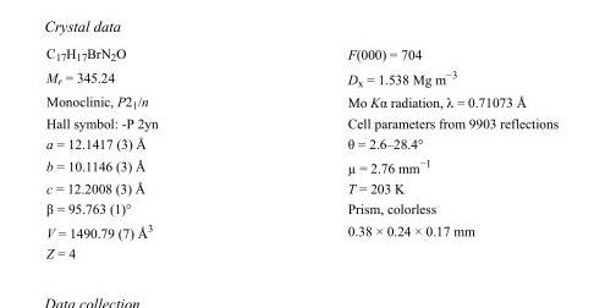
<table><tbody><tr><td>C<sub>17</sub>H<sub>17</sub>BrN<sub>2</sub>O</td><td>F(000) = 704</td></tr><tr><td>M<sub>r</sub> = 345.24</td><td>D<sub>x</sub> = 1.538 Mg m<sup>−3</sup></td></tr><tr><td>Monoclinic, P2<sub>1</sub>/n</td><td>Mo Kα radiation, λ = 0.71073 Å</td></tr><tr><td>Hall symbol: -P 2yn</td><td>Cell parameters from 9903 reflections</td></tr><tr><td>a = 12.1417 (3) Å</td><td>θ = 2.6–28.4°</td></tr><tr><td>b = 10.1146 (3) Å</td><td>µ = 2.76 mm<sup>−1</sup></td></tr><tr><td>c = 12.2008 (3) Å</td><td>T = 203 K</td></tr><tr><td>β = 95.763 (1)°</td><td>Prism, colorless</td></tr><tr><td>V = 1490.79 (7) Å<sup>3</sup></td><td>0.38 × 0.24 × 0.17 mm</td></tr><tr><td>Z = 4</td><td></td></tr></tbody></table>